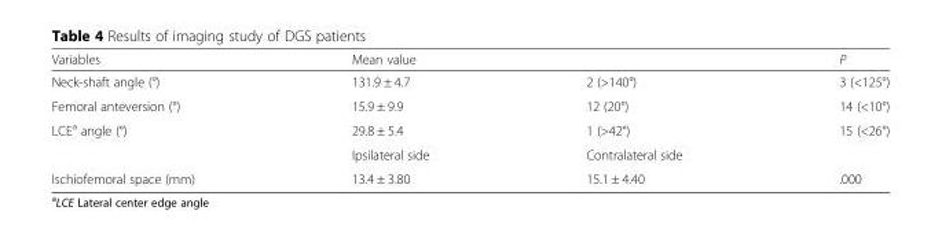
<table><thead><tr><td>Variables</td><td>Mean value</td><td></td><td>P</td></tr></thead><tbody><tr><td>Neck-shaft angle (°)</td><td>131.9 ± 4.7</td><td>2 (&gt;140°)</td><td>3 (&lt;125°)</td></tr><tr><td>Femoral anteversion (°)</td><td>15.9 ± 9.9</td><td>12 (20°)</td><td>14 (&lt;10°)</td></tr><tr><td rowspan="2">LCE<sup>a</sup> angle (°)</td><td>29.8 ± 5.4</td><td>1 (&gt;42°)</td><td>15 (&lt;26°)</td></tr><tr><td>Ipsilateral side</td><td>Contralateral side</td><td></td></tr><tr><td>Ischiofemoral space (mm)</td><td>13.4 ± 3.80</td><td>15.1 ± 4.40</td><td>.000</td></tr></tbody></table>